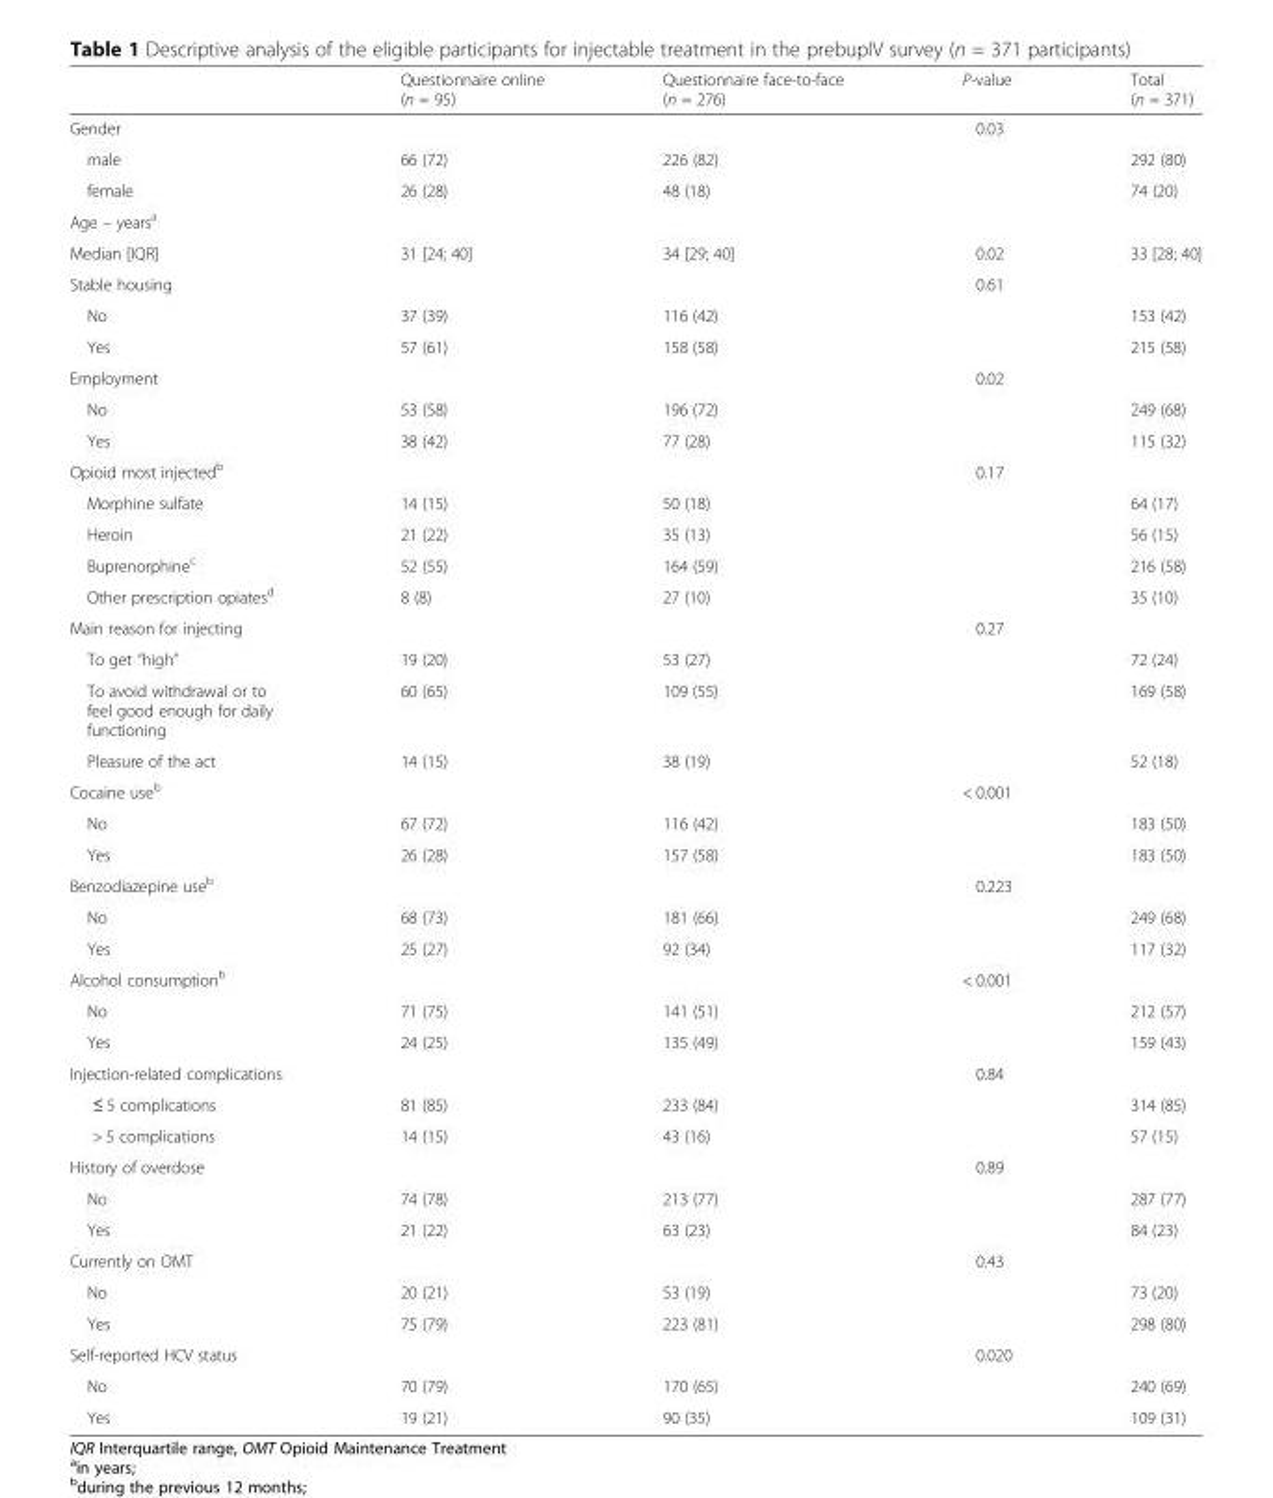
<table><thead><tr><td></td><td>Questionnaire online (n = 95)</td><td>Questionnaire face-to-face (n = 276)</td><td>P-value</td><td>Total (n = 371)</td></tr></thead><tbody><tr><td>Gender</td><td></td><td></td><td>0.03</td><td></td></tr><tr><td>male</td><td>66 (72)</td><td>226 (82)</td><td></td><td>292 (80)</td></tr><tr><td>female</td><td>26 (28)</td><td>48 (18)</td><td></td><td>74 (20)</td></tr><tr><td colspan="5">Age – years<sup>a</sup></td></tr><tr><td>Median [IQR]</td><td>31 [24; 40]</td><td>34 [29; 40]</td><td>0.02</td><td>33 [28; 40]</td></tr><tr><td>Stable housing</td><td></td><td></td><td>0.61</td><td></td></tr><tr><td>No</td><td>37 (39)</td><td>116 (42)</td><td></td><td>153 (42)</td></tr><tr><td>Yes</td><td>57 (61)</td><td>158 (58)</td><td></td><td>215 (58)</td></tr><tr><td>Employment</td><td></td><td></td><td>0.02</td><td></td></tr><tr><td>No</td><td>53 (58)</td><td>196 (72)</td><td></td><td>249 (68)</td></tr><tr><td>Yes</td><td>38 (42)</td><td>77 (28)</td><td></td><td>115 (32)</td></tr><tr><td>Opioid most injected<sup>b</sup></td><td></td><td></td><td>0.17</td><td></td></tr><tr><td>Morphine sulfate</td><td>14 (15)</td><td>50 (18)</td><td></td><td>64 (17)</td></tr><tr><td>Heroin</td><td>21 (22)</td><td>35 (13)</td><td></td><td>56 (15)</td></tr><tr><td>Buprenorphine<sup>c</sup></td><td>52 (55)</td><td>164 (59)</td><td></td><td>216 (58)</td></tr><tr><td>Other prescription opiates<sup>d</sup></td><td>8 (8)</td><td>27 (10)</td><td></td><td>35 (10)</td></tr><tr><td>Main reason for injecting</td><td></td><td></td><td>0.27</td><td></td></tr><tr><td>To get “high”</td><td>19 (20)</td><td>53 (27)</td><td></td><td>72 (24)</td></tr><tr><td>To avoid withdrawal or to feel good enough for daily functioning</td><td>60 (65)</td><td>109 (55)</td><td></td><td>169 (58)</td></tr><tr><td>Pleasure of the act</td><td>14 (15)</td><td>38 (19)</td><td></td><td>52 (18)</td></tr><tr><td>Cocaine use<sup>b</sup></td><td></td><td></td><td>&lt; 0.001</td><td></td></tr><tr><td>No</td><td>67 (72)</td><td>116 (42)</td><td></td><td>183 (50)</td></tr><tr><td>Yes</td><td>26 (28)</td><td>157 (58)</td><td></td><td>183 (50)</td></tr><tr><td>Benzodiazepine use<sup>b</sup></td><td></td><td></td><td>0.223</td><td></td></tr><tr><td>No</td><td>68 (73)</td><td>181 (66)</td><td></td><td>249 (68)</td></tr><tr><td>Yes</td><td>25 (27)</td><td>92 (34)</td><td></td><td>117 (32)</td></tr><tr><td>Alcohol consumption<sup>b</sup></td><td></td><td></td><td>&lt; 0.001</td><td></td></tr><tr><td>No</td><td>71 (75)</td><td>141 (51)</td><td></td><td>212 (57)</td></tr><tr><td>Yes</td><td>24 (25)</td><td>135 (49)</td><td></td><td>159 (43)</td></tr><tr><td>Injection-related complications</td><td></td><td></td><td>0.84</td><td></td></tr><tr><td>≤ 5 complications</td><td>81 (85)</td><td>233 (84)</td><td></td><td>314 (85)</td></tr><tr><td>&gt; 5 complications</td><td>14 (15)</td><td>43 (16)</td><td></td><td>57 (15)</td></tr><tr><td>History of overdose</td><td></td><td></td><td>0.89</td><td></td></tr><tr><td>No</td><td>74 (78)</td><td>213 (77)</td><td></td><td>287 (77)</td></tr><tr><td>Yes</td><td>21 (22)</td><td>63 (23)</td><td></td><td>84 (23)</td></tr><tr><td>Currently on OMT</td><td></td><td></td><td>0.43</td><td></td></tr><tr><td>No</td><td>20 (21)</td><td>53 (19)</td><td></td><td>73 (20)</td></tr><tr><td>Yes</td><td>75 (79)</td><td>223 (81)</td><td></td><td>298 (80)</td></tr><tr><td>Self-reported HCV status</td><td></td><td></td><td>0.020</td><td></td></tr><tr><td>No</td><td>70 (79)</td><td>170 (65)</td><td></td><td>240 (69)</td></tr><tr><td>Yes</td><td>19 (21)</td><td>90 (35)</td><td></td><td>109 (31)</td></tr></tbody></table>